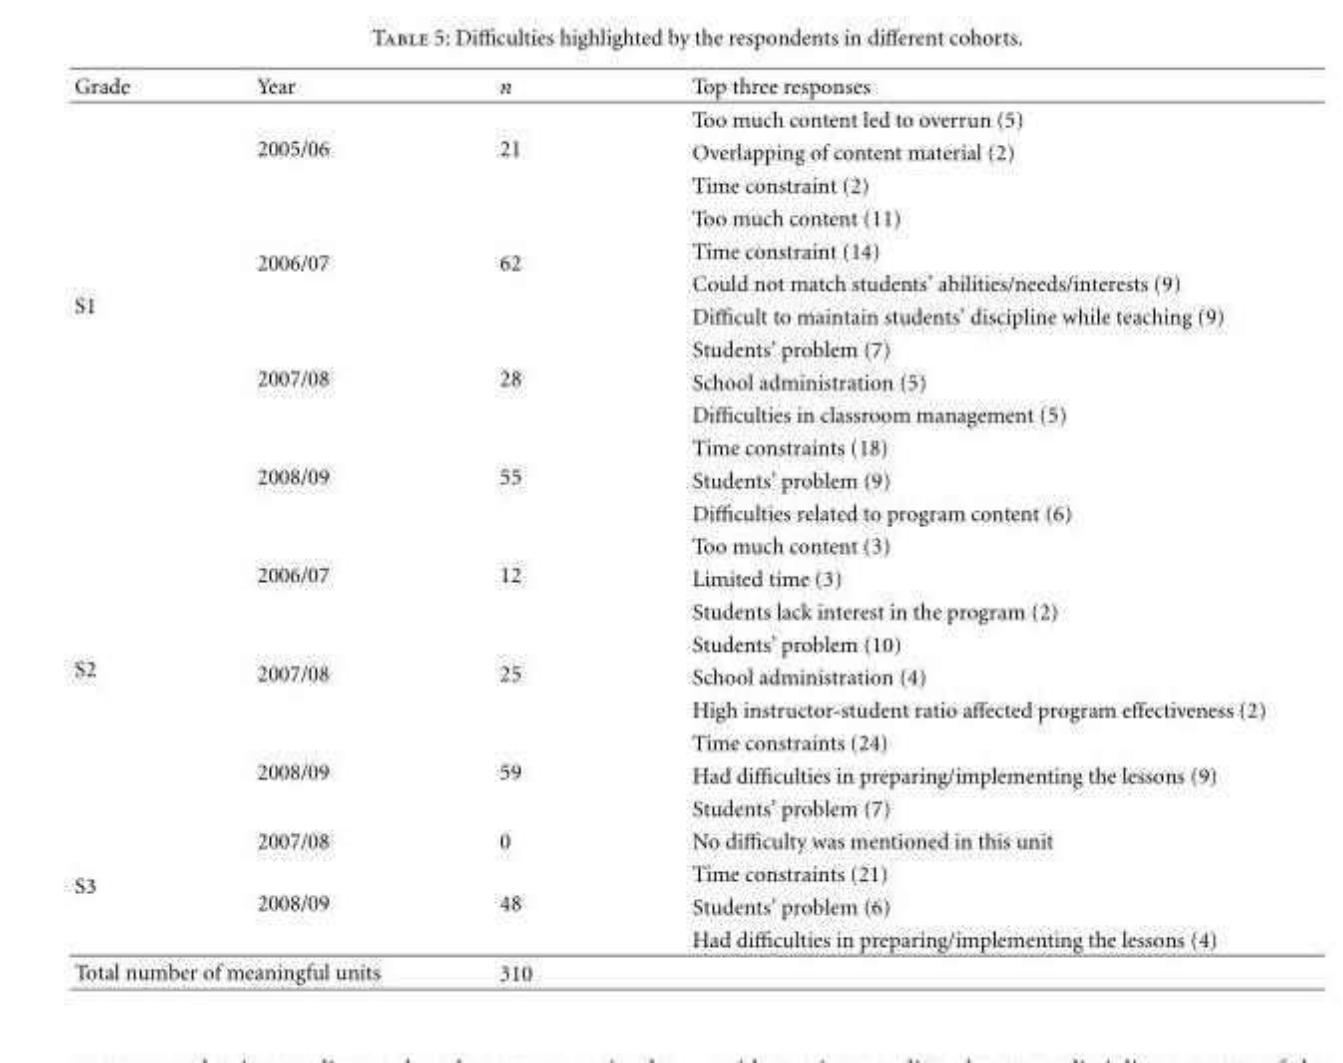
<table><thead><tr><td>Grade</td><td>Year</td><td>n</td><td>Top three responses</td></tr></thead><tbody><tr><td rowspan="13">S1</td><td rowspan="3">2005/06</td><td rowspan="3">21</td><td>Too much content led to overrun (5)</td></tr><tr><td>Overlapping of content material (2)</td></tr><tr><td>Time constraint (2)</td></tr><tr><td rowspan="4">2006/07</td><td rowspan="4">62</td><td>Too much content (11)</td></tr><tr><td>Time constraint (14)</td></tr><tr><td>Could not match students’ abilities/needs/interests (9)</td></tr><tr><td>Difficult to maintain students’ discipline while teaching (9)</td></tr><tr><td rowspan="3">2007/08</td><td rowspan="3">28</td><td>Students’ problem (7)</td></tr><tr><td>School administration (5)</td></tr><tr><td>Difficulties in classroom management (5)</td></tr><tr><td rowspan="3">2008/09</td><td rowspan="3">55</td><td>Time constraints (18)</td></tr><tr><td>Students’ problem (9)</td></tr><tr><td>Difficulties related to program content (6)</td></tr><tr><td rowspan="9">S2</td><td rowspan="3">2006/07</td><td rowspan="3">12</td><td>Too much content (3)</td></tr><tr><td>Limited time (3)</td></tr><tr><td>Students lack interest in the program (2)</td></tr><tr><td rowspan="3">2007/08</td><td rowspan="3">25</td><td>Students’ problem (10)</td></tr><tr><td>School administration (4)</td></tr><tr><td>High instructor-student ratio affected program effectiveness (2)</td></tr><tr><td rowspan="3">2008/09</td><td rowspan="3">59</td><td>Time constraints (24)</td></tr><tr><td>Had difficulties in preparing/implementing the lessons (9)</td></tr><tr><td>Students’ problem (7)</td></tr><tr><td rowspan="4">S3</td><td>2007/08</td><td>0</td><td>No difficulty was mentioned in this unit</td></tr><tr><td rowspan="3">2008/09</td><td rowspan="3">48</td><td>Time constraints (21)</td></tr><tr><td>Students’ problem (6)</td></tr><tr><td>Had difficulties in preparing/implementing the lessons (4)</td></tr><tr><td colspan="2">Total number of meaningful units</td><td>310</td><td></td></tr></tbody></table>